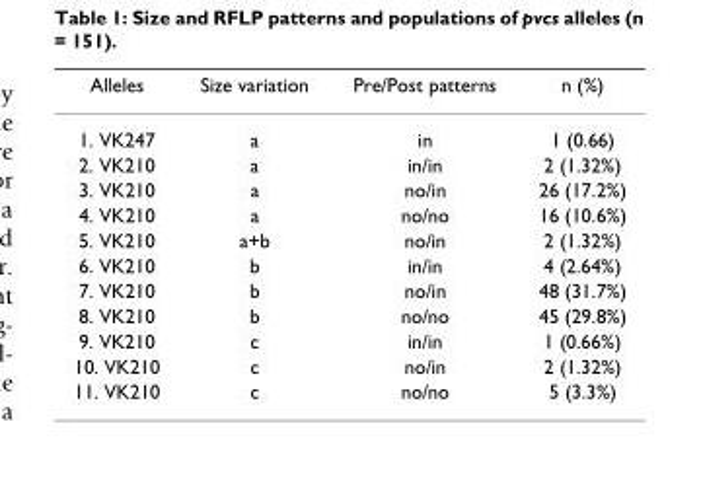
<table><thead><tr><td>Alleles</td><td>Size variation</td><td>Pre/Post patterns</td><td>n (%)</td></tr></thead><tbody><tr><td>1. VK247</td><td>a</td><td>in</td><td>1 (0.66)</td></tr><tr><td>2. VK210</td><td>a</td><td>in/in</td><td>2 (1.32%)</td></tr><tr><td>3. VK210</td><td>a</td><td>no/in</td><td>26 (17.2%)</td></tr><tr><td>4. VK210</td><td>a</td><td>no/no</td><td>16 (10.6%)</td></tr><tr><td>5. VK210</td><td>a+b</td><td>no/in</td><td>2 (1.32%)</td></tr><tr><td>6. VK210</td><td>b</td><td>in/in</td><td>4 (2.64%)</td></tr><tr><td>7. VK210</td><td>b</td><td>no/in</td><td>48 (31.7%)</td></tr><tr><td>8. VK210</td><td>b</td><td>no/no</td><td>45 (29.8%)</td></tr><tr><td>9. VK210</td><td>c</td><td>in/in</td><td>1 (0.66%)</td></tr><tr><td>10. VK210</td><td>c</td><td>no/in</td><td>2 (1.32%)</td></tr><tr><td>11. VK210</td><td>c</td><td>no/no</td><td>5 (3.3%)</td></tr></tbody></table>